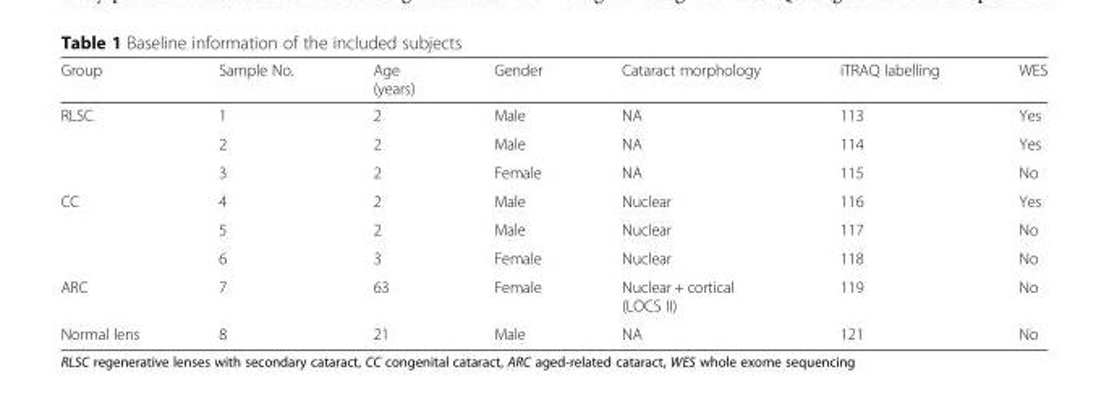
<table><thead><tr><td>Group</td><td>Sample No.</td><td>Age (years)</td><td>Gender</td><td>Cataract morphology</td><td>iTRAQ labelling</td><td>WES</td></tr></thead><tbody><tr><td rowspan="3">RLSC</td><td>1</td><td>2</td><td>Male</td><td>NA</td><td>113</td><td>Yes</td></tr><tr><td>2</td><td>2</td><td>Male</td><td>NA</td><td>114</td><td>Yes</td></tr><tr><td>3</td><td>2</td><td>Female</td><td>NA</td><td>115</td><td>No</td></tr><tr><td rowspan="3">CC</td><td>4</td><td>2</td><td>Male</td><td>Nuclear</td><td>116</td><td>Yes</td></tr><tr><td>5</td><td>2</td><td>Male</td><td>Nuclear</td><td>117</td><td>No</td></tr><tr><td>6</td><td>3</td><td>Female</td><td>Nuclear</td><td>118</td><td>No</td></tr><tr><td>ARC</td><td>7</td><td>63</td><td>Female</td><td>Nuclear + cortical (LOCS II)</td><td>119</td><td>No</td></tr><tr><td>Normal lens</td><td>8</td><td>21</td><td>Male</td><td>NA</td><td>121</td><td>No</td></tr></tbody></table>